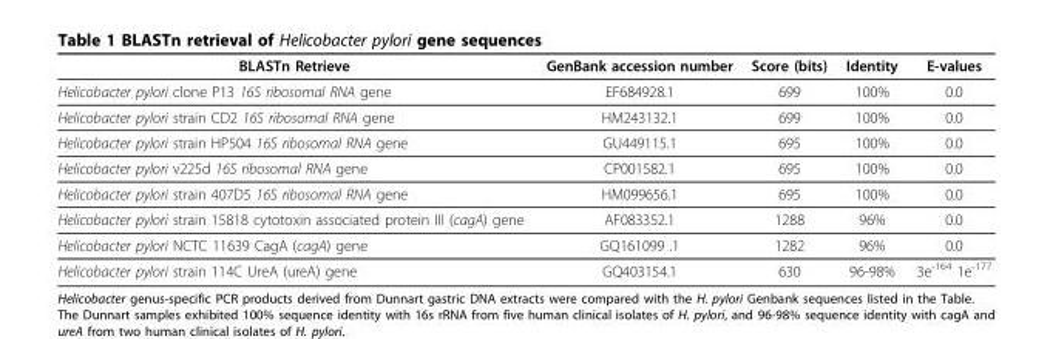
<table><thead><tr><td>BLASTn Retrieve</td><td>GenBank accession number</td><td>Score (bits)</td><td>Identity</td><td>E-values</td></tr></thead><tbody><tr><td>Helicobacter pylori clone P13 16S ribosomal RNA gene</td><td>EF684928.1</td><td>699</td><td>100%</td><td>0.0</td></tr><tr><td>Helicobacter pylori strain CD2 16S ribosomal RNA gene</td><td>HM243132.1</td><td>699</td><td>100%</td><td>0.0</td></tr><tr><td>Helicobacter pylori strain HP504 16S ribosomal RNA gene</td><td>GU449115.1</td><td>695</td><td>100%</td><td>0.0</td></tr><tr><td>Helicobacter pylori v225d 16S ribosomal RNA gene</td><td>CP001582.1</td><td>695</td><td>100%</td><td>0.0</td></tr><tr><td>Helicobacter pylori strain 407D5 16S ribosomal RNA gene</td><td>HM099656.1</td><td>695</td><td>100%</td><td>0.0</td></tr><tr><td>Helicobacter pylori strain 15818 cytotoxin associated protein III (cagA) gene</td><td>AF083352.1</td><td>1288</td><td>96%</td><td>0.0</td></tr><tr><td>Helicobacter pylori NCTC 11639 CagA (cagA) gene</td><td>GQ161099 .1</td><td>1282</td><td>96%</td><td>0.0</td></tr><tr><td>Helicobacter pylori strain 114C UreA (ureA) gene</td><td>GQ403154.1</td><td>630</td><td>96-98%</td><td>3e<sup>-164</sup> 1e<sup>-177</sup></td></tr></tbody></table>